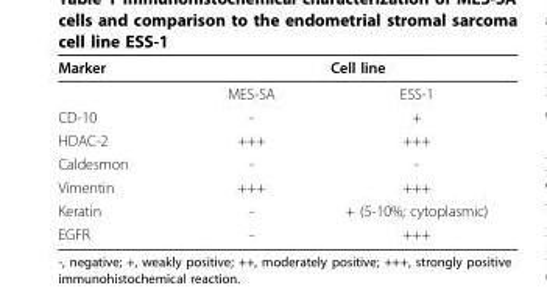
<table><thead><tr><td rowspan="2">Marker</td><td colspan="2">Cell line</td></tr><tr><td>MES-SA</td><td>ESS-1</td></tr></thead><tbody><tr><td>CD-10</td><td>-</td><td>+</td></tr><tr><td>HDAC-2</td><td>+++</td><td>+++</td></tr><tr><td>Caldesmon</td><td>-</td><td>-</td></tr><tr><td>Vimentin</td><td>+++</td><td>+++</td></tr><tr><td>Keratin</td><td>-</td><td>+ (5-10%; cytoplasmic)</td></tr><tr><td>EGFR</td><td>-</td><td>+++</td></tr></tbody></table>